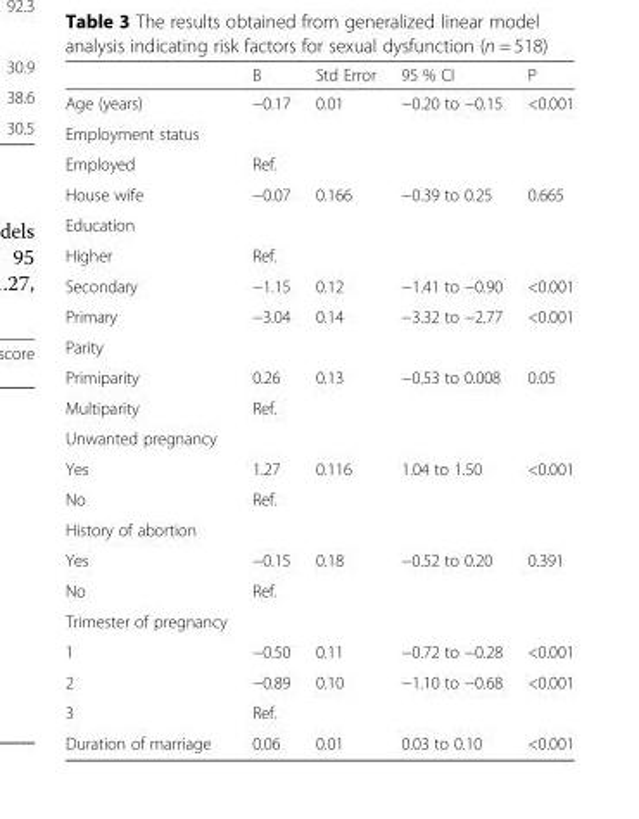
<table><thead><tr><td></td><td>B</td><td>Std Error</td><td>95 % CI</td><td>P</td></tr></thead><tbody><tr><td>Age (years)</td><td>−0.17</td><td>0.01</td><td>−0.20 to −0.15</td><td>&lt;0.001</td></tr><tr><td colspan="5">Employment status</td></tr><tr><td>Employed</td><td>Ref.</td><td></td><td></td><td></td></tr><tr><td>House wife</td><td>−0.07</td><td>0.166</td><td>−0.39 to 0.25</td><td>0.665</td></tr><tr><td colspan="5">Education</td></tr><tr><td>Higher</td><td>Ref.</td><td></td><td></td><td></td></tr><tr><td>Secondary</td><td>−1.15</td><td>0.12</td><td>−1.41 to −0.90</td><td>&lt;0.001</td></tr><tr><td>Primary</td><td>−3.04</td><td>0.14</td><td>−3.32 to −2.77</td><td>&lt;0.001</td></tr><tr><td colspan="5">Parity</td></tr><tr><td>Primiparity</td><td>0.26</td><td>0.13</td><td>−0.53 to 0.008</td><td>0.05</td></tr><tr><td>Multiparity</td><td>Ref.</td><td></td><td></td><td></td></tr><tr><td colspan="5">Unwanted pregnancy</td></tr><tr><td>Yes</td><td>1.27</td><td>0.116</td><td>1.04 to 1.50</td><td>&lt;0.001</td></tr><tr><td>No</td><td>Ref.</td><td></td><td></td><td></td></tr><tr><td colspan="5">History of abortion</td></tr><tr><td>Yes</td><td>−0.15</td><td>0.18</td><td>−0.52 to 0.20</td><td>0.391</td></tr><tr><td>No</td><td>Ref.</td><td></td><td></td><td></td></tr><tr><td colspan="5">Trimester of pregnancy</td></tr><tr><td>1</td><td>−0.50</td><td>0.11</td><td>−0.72 to −0.28</td><td>&lt;0.001</td></tr><tr><td>2</td><td>−0.89</td><td>0.10</td><td>−1.10 to −0.68</td><td>&lt;0.001</td></tr><tr><td>3</td><td>Ref.</td><td></td><td></td><td></td></tr><tr><td>Duration of marriage</td><td>0.06</td><td>0.01</td><td>0.03 to 0.10</td><td>&lt;0.001</td></tr></tbody></table>